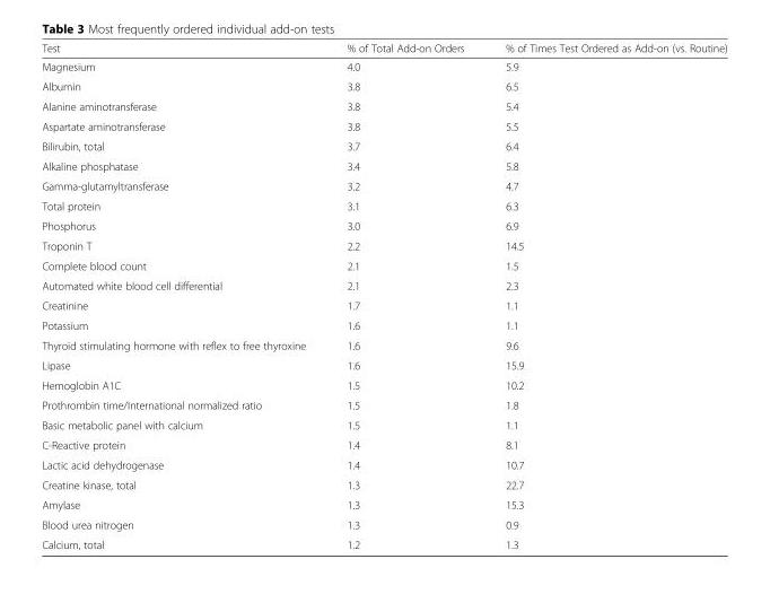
<table><thead><tr><td>Test</td><td>% of Total Add-on Orders</td><td>% of Times Test Ordered as Add-on (vs. Routine)</td></tr></thead><tbody><tr><td>Magnesium</td><td>4.0</td><td>5.9</td></tr><tr><td>Albumin</td><td>3.8</td><td>6.5</td></tr><tr><td>Alanine aminotransferase</td><td>3.8</td><td>5.4</td></tr><tr><td>Aspartate aminotransferase</td><td>3.8</td><td>5.5</td></tr><tr><td>Bilirubin, total</td><td>3.7</td><td>6.4</td></tr><tr><td>Alkaline phosphatase</td><td>3.4</td><td>5.8</td></tr><tr><td>Gamma-glutamyltransferase</td><td>3.2</td><td>4.7</td></tr><tr><td>Total protein</td><td>3.1</td><td>6.3</td></tr><tr><td>Phosphorus</td><td>3.0</td><td>6.9</td></tr><tr><td>Troponin T</td><td>2.2</td><td>14.5</td></tr><tr><td>Complete blood count</td><td>2.1</td><td>1.5</td></tr><tr><td>Automated white blood cell differential</td><td>2.1</td><td>2.3</td></tr><tr><td>Creatinine</td><td>1.7</td><td>1.1</td></tr><tr><td>Potassium</td><td>1.6</td><td>1.1</td></tr><tr><td>Thyroid stimulating hormone with reflex to free thyroxine</td><td>1.6</td><td>9.6</td></tr><tr><td>Lipase</td><td>1.6</td><td>15.9</td></tr><tr><td>Hemoglobin A1C</td><td>1.5</td><td>10.2</td></tr><tr><td>Prothrombin time/International normalized ratio</td><td>1.5</td><td>1.8</td></tr><tr><td>Basic metabolic panel with calcium</td><td>1.5</td><td>1.1</td></tr><tr><td>C-Reactive protein</td><td>1.4</td><td>8.1</td></tr><tr><td>Lactic acid dehydrogenase</td><td>1.4</td><td>10.7</td></tr><tr><td>Creatine kinase, total</td><td>1.3</td><td>22.7</td></tr><tr><td>Amylase</td><td>1.3</td><td>15.3</td></tr><tr><td>Blood urea nitrogen</td><td>1.3</td><td>0.9</td></tr><tr><td>Calcium, total</td><td>1.2</td><td>1.3</td></tr></tbody></table>